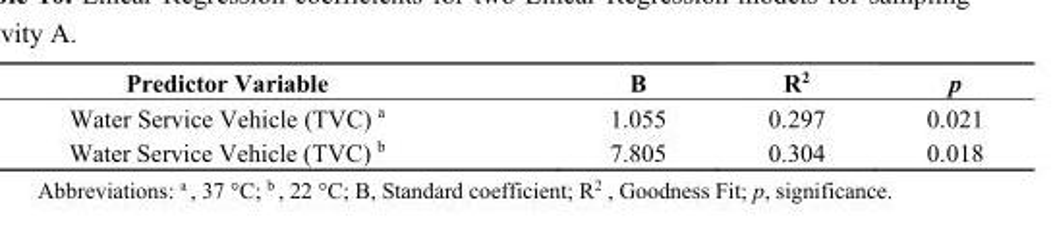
<table><thead><tr><td>Predictor Variable</td><td>B</td><td>R<sup>2</sup></td><td>p</td></tr></thead><tbody><tr><td>Water Service Vehicle (TVC) <sup>a</sup></td><td>1.055</td><td>0.297</td><td>0.021</td></tr><tr><td>Water Service Vehicle (TVC) <sup>b</sup></td><td>7.805</td><td>0.304</td><td>0.018</td></tr></tbody></table>